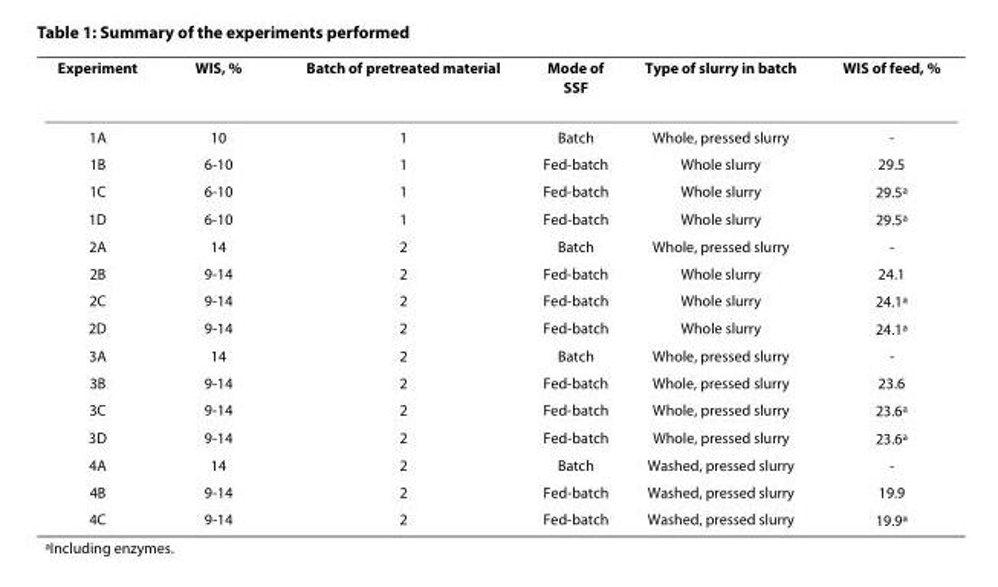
<table><thead><tr><td>Experiment</td><td>WIS, %</td><td>Batch of pretreated material</td><td>Mode of SSF</td><td>Type of slurry in batch</td><td>WIS of feed, %</td></tr></thead><tbody><tr><td>1A</td><td>10</td><td>1</td><td>Batch</td><td>Whole, pressed slurry</td><td>-</td></tr><tr><td>1B</td><td>6-10</td><td>1</td><td>Fed-batch</td><td>Whole slurry</td><td>29.5</td></tr><tr><td>1C</td><td>6-10</td><td>1</td><td>Fed-batch</td><td>Whole slurry</td><td>29.5<sup>a</sup></td></tr><tr><td>1D</td><td>6-10</td><td>1</td><td>Fed-batch</td><td>Whole slurry</td><td>29.5<sup>a</sup></td></tr><tr><td>2A</td><td>14</td><td>2</td><td>Batch</td><td>Whole, pressed slurry</td><td>-</td></tr><tr><td>2B</td><td>9-14</td><td>2</td><td>Fed-batch</td><td>Whole slurry</td><td>24.1</td></tr><tr><td>2C</td><td>9-14</td><td>2</td><td>Fed-batch</td><td>Whole slurry</td><td>24.1<sup>a</sup></td></tr><tr><td>2D</td><td>9-14</td><td>2</td><td>Fed-batch</td><td>Whole slurry</td><td>24.1<sup>a</sup></td></tr><tr><td>3A</td><td>14</td><td>2</td><td>Batch</td><td>Whole, pressed slurry</td><td>-</td></tr><tr><td>3B</td><td>9-14</td><td>2</td><td>Fed-batch</td><td>Whole, pressed slurry</td><td>23.6</td></tr><tr><td>3C</td><td>9-14</td><td>2</td><td>Fed-batch</td><td>Whole, pressed slurry</td><td>23.6<sup>a</sup></td></tr><tr><td>3D</td><td>9-14</td><td>2</td><td>Fed-batch</td><td>Whole, pressed slurry</td><td>23.6<sup>a</sup></td></tr><tr><td>4A</td><td>14</td><td>2</td><td>Batch</td><td>Washed, pressed slurry</td><td>-</td></tr><tr><td>4B</td><td>9-14</td><td>2</td><td>Fed-batch</td><td>Washed, pressed slurry</td><td>19.9</td></tr><tr><td>4C</td><td>9-14</td><td>2</td><td>Fed-batch</td><td>Washed, pressed slurry</td><td>19.9<sup>a</sup></td></tr></tbody></table>